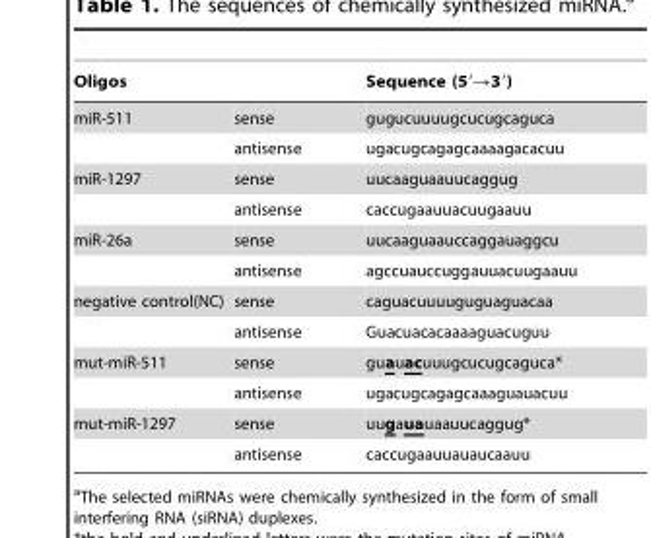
<table><thead><tr><td colspan="2">Oligos</td><td rowspan="2">Sequence (5′→3′) gugucuuuugcucugcaguca</td></tr><tr><td>miR-511</td><td>sense</td></tr></thead><tbody><tr><td></td><td>antisense</td><td>ugacugcagagcaaaagacacuu</td></tr><tr><td rowspan="2">miR-1297</td><td>sense</td><td>uucaaguaauucaggug</td></tr><tr><td>antisense</td><td>caccugaauuacuugaauu</td></tr><tr><td rowspan="2">miR-26a</td><td>sense</td><td>uucaaguaauccaggauaggcu</td></tr><tr><td>antisense</td><td>agccuauccuggauuacuugaauu</td></tr><tr><td rowspan="2">negative control(NC)</td><td>sense</td><td>caguacuuuuguguaguacaa</td></tr><tr><td>antisense</td><td>Guacuacacaaaaguacuguu</td></tr><tr><td rowspan="2">mut-miR-511</td><td>sense</td><td>guauacuuugcucugcaguca*</td></tr><tr><td>antisense</td><td>ugacugcagagcaaaguauacuu</td></tr><tr><td rowspan="2">mut-miR-1297</td><td>sense</td><td>uugauauaauucaggug*</td></tr><tr><td>antisense</td><td>caccugaauuauaucaauu</td></tr></tbody></table>